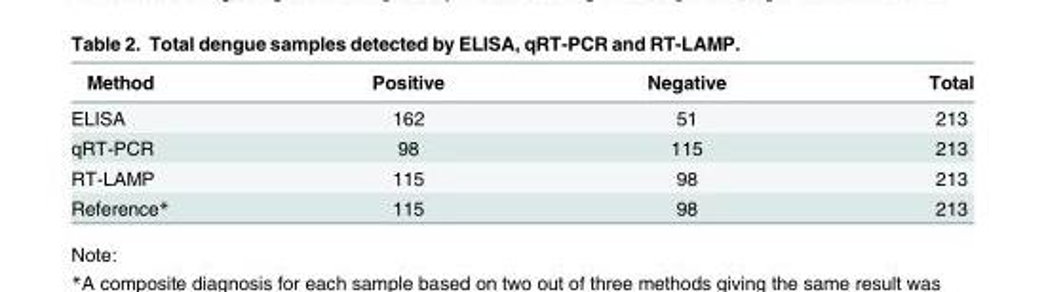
<table><thead><tr><td>Method</td><td>Positive</td><td>Negative</td><td>Total</td></tr></thead><tbody><tr><td>ELISA</td><td>162</td><td>51</td><td>213</td></tr><tr><td>qRT-PCR</td><td>98</td><td>115</td><td>213</td></tr><tr><td>RT-LAMP</td><td>115</td><td>98</td><td>213</td></tr><tr><td>Reference*</td><td>115</td><td>98</td><td>213</td></tr></tbody></table>